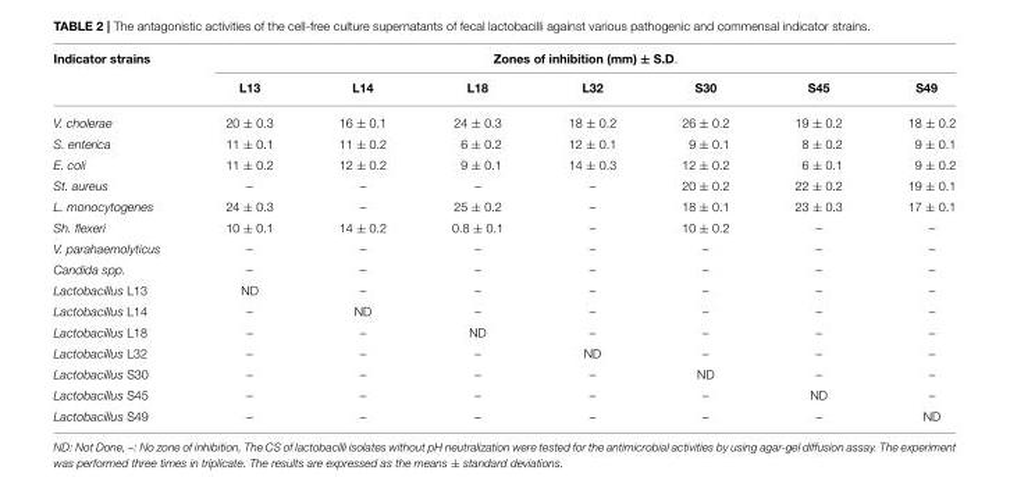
<table><thead><tr><td rowspan="2">Indicator strains</td><td colspan="7">Zones of inhibition (mm) ± S.D.</td></tr><tr><td>L13</td><td>L14</td><td>L18</td><td>L32</td><td>S30</td><td>S45</td><td>S49</td></tr></thead><tbody><tr><td>V. cholerae</td><td>20 ± 0.3</td><td>16 ± 0.1</td><td>24 ± 0.3</td><td>18 ± 0.2</td><td>26 ± 0.2</td><td>19 ± 0.2</td><td>18 ± 0.2</td></tr><tr><td>S. enterica</td><td>11 ± 0.1</td><td>11 ± 0.2</td><td>6 ± 0.2</td><td>12 ± 0.1</td><td>9 ± 0.1</td><td>8 ± 0.2</td><td>9 ± 0.1</td></tr><tr><td>E. coli</td><td>11 ± 0.2</td><td>12 ± 0.2</td><td>9 ± 0.1</td><td>14 ± 0.3</td><td>12 ± 0.2</td><td>6 ± 0.1</td><td>9 ± 0.2</td></tr><tr><td>St. aureus</td><td>–</td><td>–</td><td>–</td><td>–</td><td>20 ± 0.2</td><td>22 ± 0.2</td><td>19 ± 0.1</td></tr><tr><td>L. monocytogenes</td><td>24 ± 0.3</td><td>–</td><td>25 ± 0.2</td><td>–</td><td>18 ± 0.1</td><td>23 ± 0.3</td><td>17 ± 0.1</td></tr><tr><td>Sh. flexeri</td><td>10 ± 0.1</td><td>14 ± 0.2</td><td>0.8 ± 0.1</td><td>–</td><td>10 ± 0.2</td><td>–</td><td>–</td></tr><tr><td>V. parahaemolyticus</td><td>–</td><td>–</td><td>–</td><td>–</td><td>–</td><td>–</td><td>–</td></tr><tr><td>Candida spp.</td><td>–</td><td>–</td><td>–</td><td>–</td><td>–</td><td>–</td><td>–</td></tr><tr><td>Lactobacillus L13</td><td>ND</td><td>–</td><td>–</td><td>–</td><td>–</td><td>–</td><td>–</td></tr><tr><td>Lactobacillus L14</td><td>–</td><td>ND</td><td>–</td><td>–</td><td>–</td><td>–</td><td>–</td></tr><tr><td>Lactobacillus L18</td><td>–</td><td>–</td><td>ND</td><td>–</td><td>–</td><td>–</td><td>–</td></tr><tr><td>Lactobacillus L32</td><td>–</td><td>–</td><td>–</td><td>ND</td><td>–</td><td>–</td><td>–</td></tr><tr><td>Lactobacillus S30</td><td>–</td><td>–</td><td>–</td><td>–</td><td>ND</td><td>–</td><td>–</td></tr><tr><td>Lactobacillus S45</td><td>–</td><td>–</td><td>–</td><td>–</td><td>–</td><td>ND</td><td>–</td></tr><tr><td>Lactobacillus S49</td><td>–</td><td>–</td><td>–</td><td>–</td><td>–</td><td>–</td><td>ND</td></tr></tbody></table>